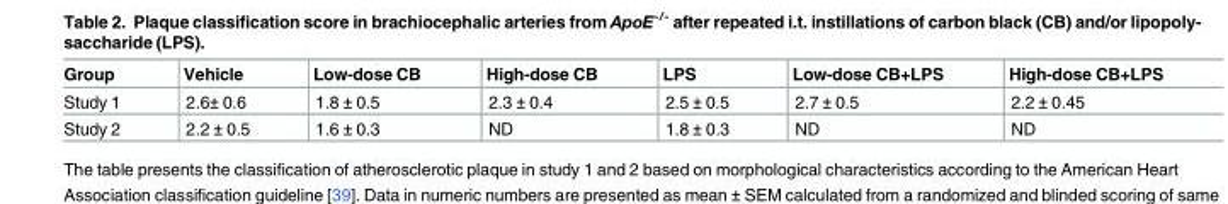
<table><thead><tr><td>Group</td><td>Vehicle</td><td>Low-dose CB</td><td>High-dose CB</td><td>LPS</td><td>Low-dose CB+LPS</td><td>High-dose CB+LPS</td></tr></thead><tbody><tr><td>Study 1</td><td>2.6± 0.6</td><td>1.8 ± 0.5</td><td>2.3 ± 0.4</td><td>2.5 ± 0.5</td><td>2.7 ± 0.5</td><td>2.2 ± 0.45</td></tr><tr><td>Study 2</td><td>2.2 ± 0.5</td><td>1.6 ± 0.3</td><td>ND</td><td>1.8 ± 0.3</td><td>ND</td><td>ND</td></tr></tbody></table>